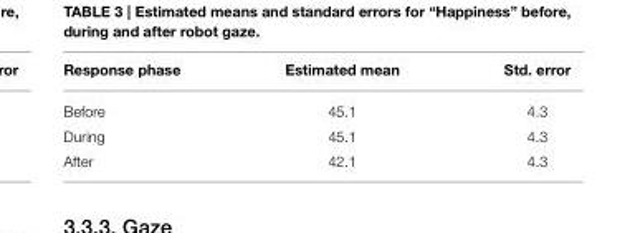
<table><thead><tr><td>Response phase</td><td>Estimated mean</td><td>Std. error</td></tr></thead><tbody><tr><td>Before</td><td>45.1</td><td>4.3</td></tr><tr><td>During</td><td>45.1</td><td>4.3</td></tr><tr><td>After</td><td>42.1</td><td>4.3</td></tr></tbody></table>